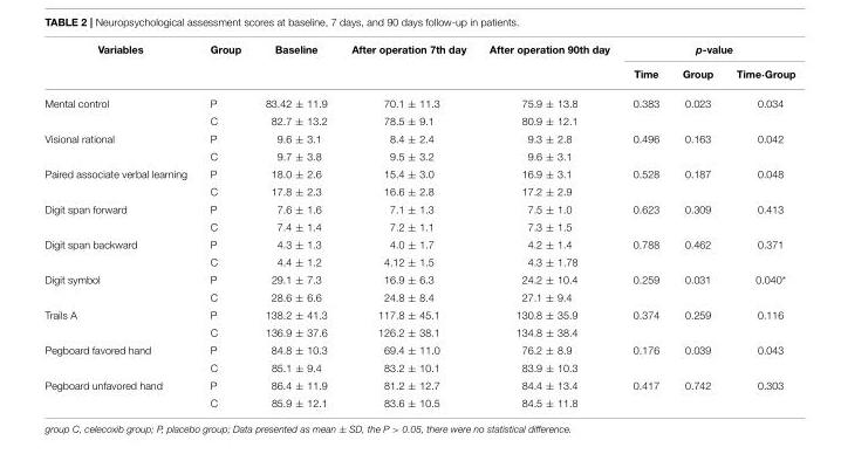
<table><thead><tr><td rowspan="2">Variables</td><td rowspan="2">Group</td><td rowspan="2">Baseline</td><td rowspan="2">After operation 7th day</td><td rowspan="2">After operation 90th day</td><td colspan="3">p-value</td></tr><tr><td>Time</td><td>Group</td><td>Time·Group</td></tr></thead><tbody><tr><td rowspan="2">Mental control</td><td>P</td><td>83.42 ± 11.9</td><td>70.1 ± 11.3</td><td>75.9 ± 13.8</td><td>0.383</td><td>0.023</td><td>0.034</td></tr><tr><td>C</td><td>82.7 ± 13.2</td><td>78.5 ± 9.1</td><td>80.9 ± 12.1</td><td></td><td></td><td></td></tr><tr><td rowspan="2">Visional rational</td><td>P</td><td>9.6 ± 3.1</td><td>8.4 ± 2.4</td><td>9.3 ± 2.8</td><td>0.496</td><td>0.163</td><td>0.042</td></tr><tr><td>C</td><td>9.7 ± 3.8</td><td>9.5 ± 3.2</td><td>9.6 ± 3.1</td><td></td><td></td><td></td></tr><tr><td rowspan="2">Paired associate verbal learning</td><td>P</td><td>18.0 ± 2.6</td><td>15.4 ± 3.0</td><td>16.9 ± 3.1</td><td>0.528</td><td>0.187</td><td>0.048</td></tr><tr><td>C</td><td>17.8 ± 2.3</td><td>16.6 ± 2.8</td><td>17.2 ± 2.9</td><td></td><td></td><td></td></tr><tr><td rowspan="2">Digit span forward</td><td>P</td><td>7.6 ± 1.6</td><td>7.1 ± 1.3</td><td>7.5 ± 1.0</td><td>0.623</td><td>0.309</td><td>0.413</td></tr><tr><td>C</td><td>7.4 ± 1.4</td><td>7.2 ± 1.1</td><td>7.3 ± 1.5</td><td></td><td></td><td></td></tr><tr><td rowspan="2">Digit span backward</td><td>P</td><td>4.3 ± 1.3</td><td>4.0 ± 1.7</td><td>4.2 ± 1.4</td><td>0.788</td><td>0.462</td><td>0.371</td></tr><tr><td>C</td><td>4.4 ± 1.2</td><td>4.12 ± 1.5</td><td>4.3 ± 1.78</td><td></td><td></td><td></td></tr><tr><td rowspan="2">Digit symbol</td><td>P</td><td>29.1 ± 7.3</td><td>16.9 ± 6.3</td><td>24.2 ± 10.4</td><td>0.259</td><td>0.031</td><td>0.040*</td></tr><tr><td>C</td><td>28.6 ± 6.6</td><td>24.8 ± 8.4</td><td>27.1 ± 9.4</td><td></td><td></td><td></td></tr><tr><td rowspan="2">Trails A</td><td>P</td><td>138.2 ± 41.3</td><td>117.8 ± 45.1</td><td>130.8 ± 35.9</td><td>0.374</td><td>0.259</td><td>0.116</td></tr><tr><td>C</td><td>136.9 ± 37.6</td><td>126.2 ± 38.1</td><td>134.8 ± 38.4</td><td></td><td></td><td></td></tr><tr><td rowspan="2">Pegboard favored hand</td><td>P</td><td>84.8 ± 10.3</td><td>69.4 ± 11.0</td><td>76.2 ± 8.9</td><td>0.176</td><td>0.039</td><td>0.043</td></tr><tr><td>C</td><td>85.1 ± 9.4</td><td>83.2 ± 10.1</td><td>83.9 ± 10.3</td><td></td><td></td><td></td></tr><tr><td rowspan="2">Pegboard unfavored hand</td><td>P</td><td>86.4 ± 11.9</td><td>81.2 ± 12.7</td><td>84.4 ± 13.4</td><td>0.417</td><td>0.742</td><td>0.303</td></tr><tr><td>C</td><td>85.9 ± 12.1</td><td>83.6 ± 10.5</td><td>84.5 ± 11.8</td><td></td><td></td><td></td></tr></tbody></table>